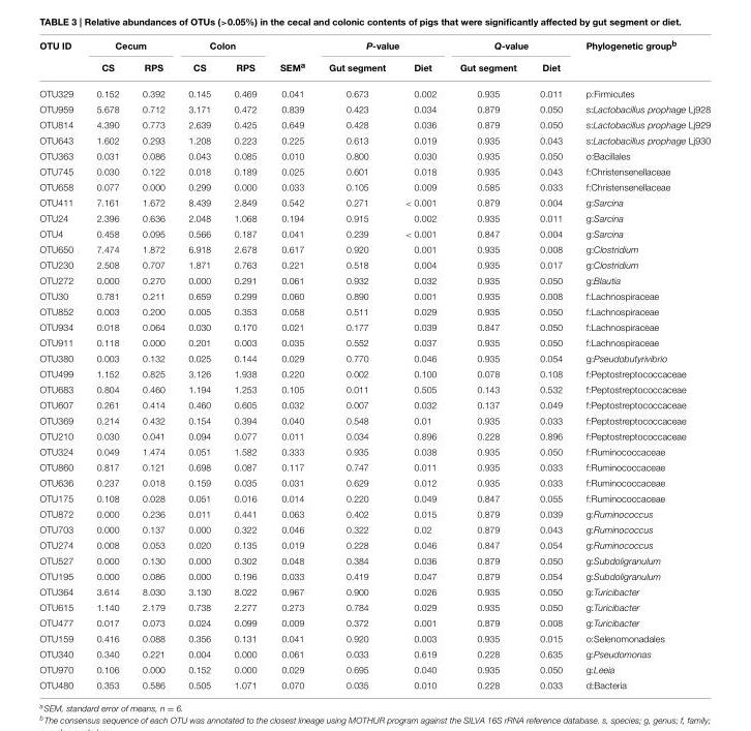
<table><thead><tr><td rowspan="2">OTU ID</td><td colspan="2">Cecum</td><td colspan="2">Colon</td><td rowspan="2">SEM<sup>a</sup></td><td colspan="2">P-value</td><td colspan="2">Q-value</td><td rowspan="2">Phylogenetic group<sup>b</sup></td></tr><tr><td>CS</td><td>RPS</td><td>CS</td><td>RPS</td><td>Gut segment</td><td>Diet</td><td>Gut segment</td><td>Diet</td></tr></thead><tbody><tr><td>OTU329</td><td>0.152</td><td>0.392</td><td>0.145</td><td>0.469</td><td>0.041</td><td>0.673</td><td>0.002</td><td>0.935</td><td>0.011</td><td>p:Firmicutes</td></tr><tr><td>OTU959</td><td>5.678</td><td>0.712</td><td>3.171</td><td>0.472</td><td>0.839</td><td>0.423</td><td>0.034</td><td>0.879</td><td>0.050</td><td>s:Lactobacillus prophage Lj928</td></tr><tr><td>OTU814</td><td>4.390</td><td>0.773</td><td>2.639</td><td>0.425</td><td>0.649</td><td>0.428</td><td>0.036</td><td>0.879</td><td>0.050</td><td>s:Lactobacillus prophage Lj929</td></tr><tr><td>OTU643</td><td>1.602</td><td>0.293</td><td>1.208</td><td>0.223</td><td>0.225</td><td>0.613</td><td>0.019</td><td>0.935</td><td>0.043</td><td>s:Lactobacillus prophage Lj930</td></tr><tr><td>OTU363</td><td>0.031</td><td>0.086</td><td>0.043</td><td>0.085</td><td>0.010</td><td>0.800</td><td>0.030</td><td>0.935</td><td>0.050</td><td>o:Bacillales</td></tr><tr><td>OTU745</td><td>0.030</td><td>0.122</td><td>0.018</td><td>0.189</td><td>0.025</td><td>0.601</td><td>0.018</td><td>0.935</td><td>0.043</td><td>f:Christensenellaceae</td></tr><tr><td>OTU658</td><td>0.077</td><td>0.000</td><td>0.299</td><td>0.000</td><td>0.033</td><td>0.105</td><td>0.009</td><td>0.585</td><td>0.033</td><td>f:Christensenellaceae</td></tr><tr><td>OTU411</td><td>7.161</td><td>1.672</td><td>8.439</td><td>2.849</td><td>0.542</td><td>0.271</td><td>&lt; 0.001</td><td>0.879</td><td>0.004</td><td>g:Sarcina</td></tr><tr><td>OTU24</td><td>2.396</td><td>0.636</td><td>2.048</td><td>1.068</td><td>0.194</td><td>0.915</td><td>0.002</td><td>0.935</td><td>0.011</td><td>g:Sarcina</td></tr><tr><td>OTU4</td><td>0.458</td><td>0.095</td><td>0.566</td><td>0.187</td><td>0.041</td><td>0.239</td><td>&lt; 0.001</td><td>0.847</td><td>0.004</td><td>g:Sarcina</td></tr><tr><td>OTU650</td><td>7.474</td><td>1.872</td><td>6.918</td><td>2.678</td><td>0.617</td><td>0.920</td><td>0.001</td><td>0.935</td><td>0.008</td><td>g:Clostridium</td></tr><tr><td>OTU230</td><td>2.508</td><td>0.707</td><td>1.871</td><td>0.763</td><td>0.221</td><td>0.518</td><td>0.004</td><td>0.935</td><td>0.017</td><td>g:Clostridium</td></tr><tr><td>OTU272</td><td>0.000</td><td>0.270</td><td>0.000</td><td>0.291</td><td>0.061</td><td>0.932</td><td>0.032</td><td>0.935</td><td>0.050</td><td>g:Blautia</td></tr><tr><td>OTU30</td><td>0.781</td><td>0.211</td><td>0.659</td><td>0.299</td><td>0.060</td><td>0.890</td><td>0.001</td><td>0.935</td><td>0.008</td><td>f:Lachnospiraceae</td></tr><tr><td>OTU852</td><td>0.003</td><td>0.200</td><td>0.005</td><td>0.353</td><td>0.058</td><td>0.511</td><td>0.029</td><td>0.935</td><td>0.050</td><td>f:Lachnospiraceae</td></tr><tr><td>OTU934</td><td>0.018</td><td>0.064</td><td>0.030</td><td>0.170</td><td>0.021</td><td>0.177</td><td>0.039</td><td>0.847</td><td>0.050</td><td>f:Lachnospiraceae</td></tr><tr><td>OTU911</td><td>0.118</td><td>0.000</td><td>0.201</td><td>0.003</td><td>0.035</td><td>0.552</td><td>0.037</td><td>0.935</td><td>0.050</td><td>f:Lachnospiraceae</td></tr><tr><td>OTU380</td><td>0.003</td><td>0.132</td><td>0.025</td><td>0.144</td><td>0.029</td><td>0.770</td><td>0.046</td><td>0.935</td><td>0.054</td><td>g:Pseudobutyrivibrio</td></tr><tr><td>OTU499</td><td>1.152</td><td>0.825</td><td>3.126</td><td>1.938</td><td>0.220</td><td>0.002</td><td>0.100</td><td>0.078</td><td>0.108</td><td>f:Peptostreptococcaceae</td></tr><tr><td>OTU683</td><td>0.804</td><td>0.460</td><td>1.194</td><td>1.253</td><td>0.105</td><td>0.011</td><td>0.505</td><td>0.143</td><td>0.532</td><td>f:Peptostreptococcaceae</td></tr><tr><td>OTU607</td><td>0.261</td><td>0.414</td><td>0.460</td><td>0.605</td><td>0.032</td><td>0.007</td><td>0.032</td><td>0.137</td><td>0.049</td><td>f:Peptostreptococcaceae</td></tr><tr><td>OTU369</td><td>0.214</td><td>0.432</td><td>0.154</td><td>0.394</td><td>0.040</td><td>0.548</td><td>0.01</td><td>0.935</td><td>0.033</td><td>f:Peptostreptococcaceae</td></tr><tr><td>OTU210</td><td>0.030</td><td>0.041</td><td>0.094</td><td>0.077</td><td>0.011</td><td>0.034</td><td>0.896</td><td>0.228</td><td>0.896</td><td>f:Peptostreptococcaceae</td></tr><tr><td>OTU324</td><td>0.049</td><td>1.474</td><td>0.051</td><td>1.582</td><td>0.333</td><td>0.935</td><td>0.038</td><td>0.935</td><td>0.050</td><td>f:Ruminococcaceae</td></tr><tr><td>OTU860</td><td>0.817</td><td>0.121</td><td>0.698</td><td>0.087</td><td>0.117</td><td>0.747</td><td>0.011</td><td>0.935</td><td>0.033</td><td>f:Ruminococcaceae</td></tr><tr><td>OTU636</td><td>0.237</td><td>0.018</td><td>0.159</td><td>0.035</td><td>0.031</td><td>0.629</td><td>0.012</td><td>0.935</td><td>0.033</td><td>f:Ruminococcaceae</td></tr><tr><td>OTU175</td><td>0.108</td><td>0.028</td><td>0.051</td><td>0.016</td><td>0.014</td><td>0.220</td><td>0.049</td><td>0.847</td><td>0.055</td><td>f:Ruminococcaceae</td></tr><tr><td>OTU872</td><td>0.000</td><td>0.236</td><td>0.011</td><td>0.441</td><td>0.063</td><td>0.402</td><td>0.015</td><td>0.879</td><td>0.039</td><td>g:Ruminococcus</td></tr><tr><td>OTU703</td><td>0.000</td><td>0.137</td><td>0.000</td><td>0.322</td><td>0.046</td><td>0.322</td><td>0.02</td><td>0.879</td><td>0.043</td><td>g:Ruminococcus</td></tr><tr><td>OTU274</td><td>0.008</td><td>0.053</td><td>0.020</td><td>0.135</td><td>0.019</td><td>0.228</td><td>0.046</td><td>0.847</td><td>0.054</td><td>g:Ruminococcus</td></tr><tr><td>OTU527</td><td>0.000</td><td>0.130</td><td>0.000</td><td>0.302</td><td>0.048</td><td>0.384</td><td>0.036</td><td>0.879</td><td>0.050</td><td>g:Subdoligranulum</td></tr><tr><td>OTU195</td><td>0.000</td><td>0.086</td><td>0.000</td><td>0.196</td><td>0.033</td><td>0.419</td><td>0.047</td><td>0.879</td><td>0.054</td><td>g:Subdoligranulum</td></tr><tr><td>OTU364</td><td>3.614</td><td>8.030</td><td>3.130</td><td>8.022</td><td>0.967</td><td>0.900</td><td>0.026</td><td>0.935</td><td>0.050</td><td>g:Turicibacter</td></tr><tr><td>OTU615</td><td>1.140</td><td>2.179</td><td>0.738</td><td>2.277</td><td>0.273</td><td>0.784</td><td>0.029</td><td>0.935</td><td>0.050</td><td>g:Turicibacter</td></tr><tr><td>OTU477</td><td>0.017</td><td>0.073</td><td>0.024</td><td>0.099</td><td>0.009</td><td>0.372</td><td>0.001</td><td>0.879</td><td>0.008</td><td>g:Turicibacter</td></tr><tr><td>OTU159</td><td>0.416</td><td>0.088</td><td>0.356</td><td>0.131</td><td>0.041</td><td>0.920</td><td>0.003</td><td>0.935</td><td>0.015</td><td>o:Selenomonadales</td></tr><tr><td>OTU340</td><td>0.340</td><td>0.221</td><td>0.004</td><td>0.000</td><td>0.061</td><td>0.033</td><td>0.619</td><td>0.228</td><td>0.635</td><td>g:Pseudomonas</td></tr><tr><td>OTU970</td><td>0.106</td><td>0.000</td><td>0.152</td><td>0.000</td><td>0.029</td><td>0.695</td><td>0.040</td><td>0.935</td><td>0.050</td><td>g:Leeia</td></tr><tr><td>OTU480</td><td>0.353</td><td>0.586</td><td>0.505</td><td>1.071</td><td>0.070</td><td>0.035</td><td>0.010</td><td>0.228</td><td>0.033</td><td>d:Bacteria</td></tr></tbody></table>